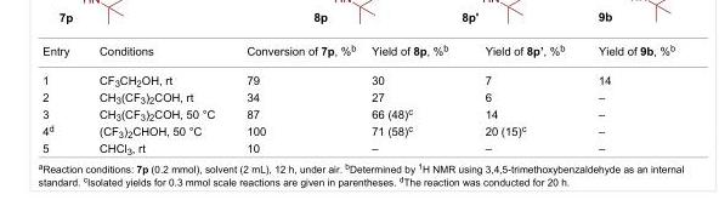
<table><tbody><tr><td>Entry</td><td>Conditions</td><td>Conversion of 7p, %<sup>b</sup></td><td>Yield of 8p, %<sup>b</sup></td><td>Yield of 8p’, %<sup>b</sup></td><td>Yield of 9b, %<sup>b</sup></td></tr><tr><td>1</td><td>CF<sub>3</sub>CH<sub>2</sub>OH, rt</td><td>79</td><td>30</td><td>7</td><td>14</td></tr><tr><td>2</td><td>CH<sub>3</sub>(CF<sub>3</sub>)<sub>2</sub>COH, rt</td><td>34</td><td>27</td><td>6</td><td>–</td></tr><tr><td>3</td><td>CH<sub>3</sub>(CF<sub>3</sub>)<sub>2</sub>COH, 50 °C</td><td>87</td><td>66 (48)<sup>c</sup></td><td>14</td><td>–</td></tr><tr><td>4<sup>d</sup></td><td>(CF<sub>3</sub>)<sub>2</sub>CHOH, 50 °C</td><td>100</td><td>71 (58)<sup>c</sup></td><td>20 (15)<sup>c</sup></td><td>–</td></tr><tr><td>5</td><td>CHCl<sub>3</sub>, rt</td><td>10</td><td>–</td><td>–</td><td>–</td></tr></tbody></table>